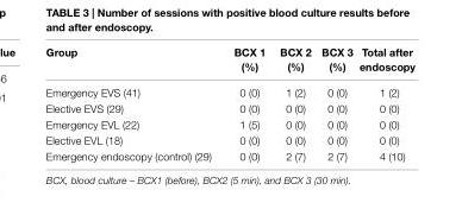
<table><thead><tr><td>group</td><td>BcX 1 (%)</td><td>BcX 2 (%)</td><td>BcX 3 (%)</td><td>Total after endoscopy</td></tr></thead><tbody><tr><td>Emergency EVS (41)</td><td>0 (0)</td><td>1 (2)</td><td>0 (0)</td><td>1 (2)</td></tr><tr><td>Elective EVS (29)</td><td>0 (0)</td><td>0 (0)</td><td>0 (0)</td><td>0 (0)</td></tr><tr><td>Emergency EVL (22)</td><td>1 (5)</td><td>0 (0)</td><td>0 (0)</td><td>0 (0)</td></tr><tr><td>Elective EVL (18)</td><td>0 (0)</td><td>0 (0)</td><td>0 (0)</td><td>0 (0)</td></tr><tr><td>Emergency endoscopy (control) (29)</td><td>0 (0)</td><td>2 (7)</td><td>2 (7)</td><td>4 (10)</td></tr></tbody></table>